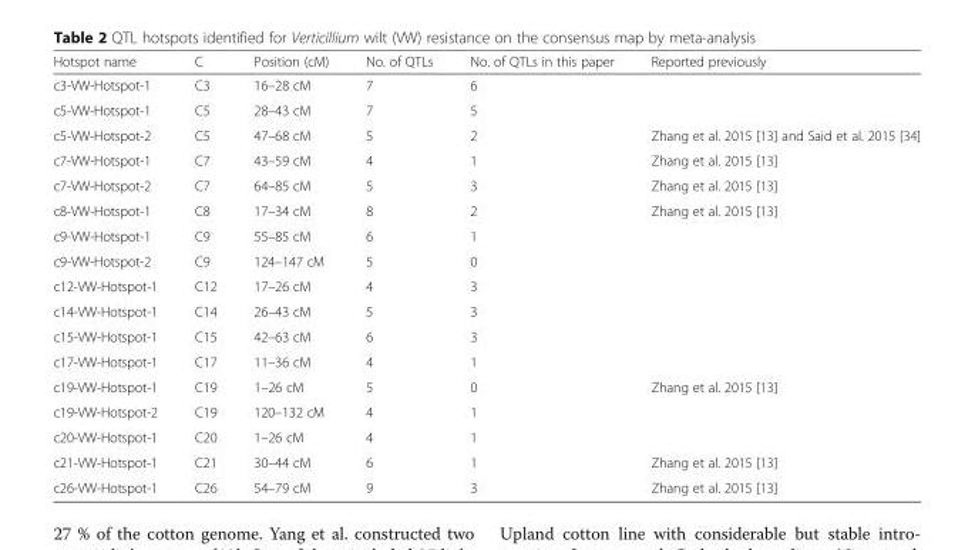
<table><thead><tr><td>Hotspot name</td><td>C</td><td>Position (cM)</td><td>No. of QTLs</td><td>No. of QTLs in this paper</td><td>Reported previously</td></tr></thead><tbody><tr><td>c3-VW-Hotspot-1</td><td>C3</td><td>16–28 cM</td><td>7</td><td>6</td><td></td></tr><tr><td>c5-VW-Hotspot-1</td><td>C5</td><td>28–43 cM</td><td>7</td><td>5</td><td></td></tr><tr><td>c5-VW-Hotspot-2</td><td>C5</td><td>47–68 cM</td><td>5</td><td>2</td><td>Zhang et al. 2015 [13] and Said et al. 2015 [34]</td></tr><tr><td>c7-VW-Hotspot-1</td><td>C7</td><td>43–59 cM</td><td>4</td><td>1</td><td>Zhang et al. 2015 [13]</td></tr><tr><td>c7-VW-Hotspot-2</td><td>C7</td><td>64–85 cM</td><td>5</td><td>3</td><td>Zhang et al. 2015 [13]</td></tr><tr><td>c8-VW-Hotspot-1</td><td>C8</td><td>17–34 cM</td><td>8</td><td>2</td><td>Zhang et al. 2015 [13]</td></tr><tr><td>c9-VW-Hotspot-1</td><td>C9</td><td>55–85 cM</td><td>6</td><td>1</td><td></td></tr><tr><td>c9-VW-Hotspot-2</td><td>C9</td><td>124–147 cM</td><td>5</td><td>0</td><td></td></tr><tr><td>c12-VW-Hotspot-1</td><td>C12</td><td>17–26 cM</td><td>4</td><td>3</td><td></td></tr><tr><td>c14-VW-Hotspot-1</td><td>C14</td><td>26–43 cM</td><td>5</td><td>3</td><td></td></tr><tr><td>c15-VW-Hotspot-1</td><td>C15</td><td>42–63 cM</td><td>6</td><td>3</td><td></td></tr><tr><td>c17-VW-Hotspot-1</td><td>C17</td><td>11–36 cM</td><td>4</td><td>1</td><td></td></tr><tr><td>c19-VW-Hotspot-1</td><td>C19</td><td>1–26 cM</td><td>5</td><td>0</td><td>Zhang et al. 2015 [13]</td></tr><tr><td>c19-VW-Hotspot-2</td><td>C19</td><td>120–132 cM</td><td>4</td><td>1</td><td></td></tr><tr><td>c20-VW-Hotspot-1</td><td>C20</td><td>1–26 cM</td><td>4</td><td>1</td><td></td></tr><tr><td>c21-VW-Hotspot-1</td><td>C21</td><td>30–44 cM</td><td>6</td><td>1</td><td>Zhang et al. 2015 [13]</td></tr><tr><td>c26-VW-Hotspot-1</td><td>C26</td><td>54–79 cM</td><td>9</td><td>3</td><td>Zhang et al. 2015 [13]</td></tr></tbody></table>